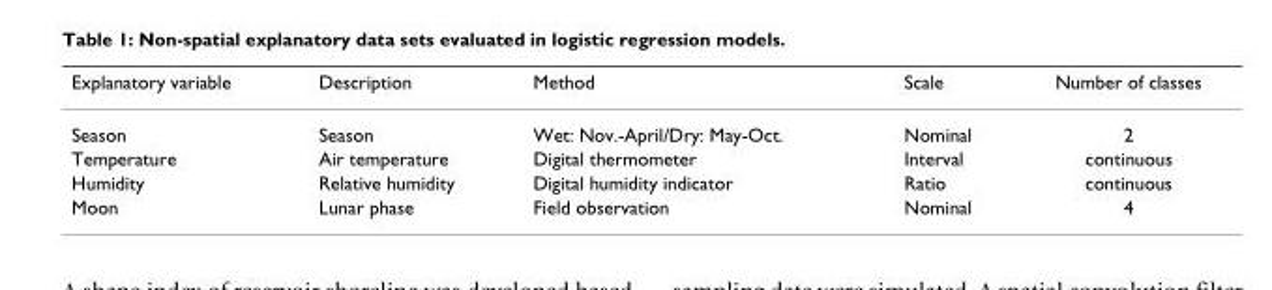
<table><thead><tr><td>Explanatory variable</td><td>Description</td><td>Method</td><td>Scale</td><td>Number of classes</td></tr></thead><tbody><tr><td>Season</td><td>Season</td><td>Wet: Nov.-April/Dry: May-Oct.</td><td>Nominal</td><td>2</td></tr><tr><td>Temperature</td><td>Air temperature</td><td>Digital thermometer</td><td>Interval</td><td>continuous</td></tr><tr><td>Humidity</td><td>Relative humidity</td><td>Digital humidity indicator</td><td>Ratio</td><td>continuous</td></tr><tr><td>Moon</td><td>Lunar phase</td><td>Field observation</td><td>Nominal</td><td>4</td></tr></tbody></table>